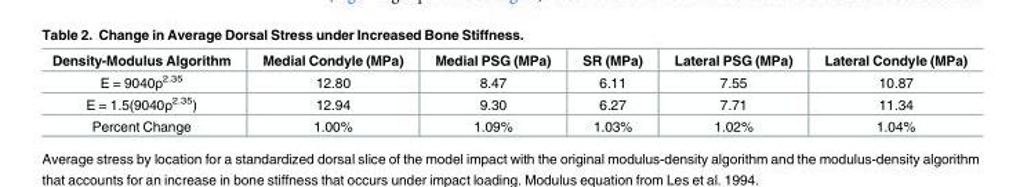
<table><thead><tr><td>Density-Modulus Algorithm</td><td>Medial Condyle (MPa)</td><td>Medial PSG (MPa)</td><td>SR (MPa)</td><td>Lateral PSG (MPa)</td><td>Lateral Condyle (MPa)</td></tr></thead><tbody><tr><td>E = 9040ρ<sup>2.35</sup></td><td>12.80</td><td>8.47</td><td>6.11</td><td>7.55</td><td>10.87</td></tr><tr><td>E = 1.5(9040ρ<sup>2.35</sup>)</td><td>12.94</td><td>9.30</td><td>6.27</td><td>7.71</td><td>11.34</td></tr><tr><td>Percent Change</td><td>1.00%</td><td>1.09%</td><td>1.03%</td><td>1.02%</td><td>1.04%</td></tr></tbody></table>